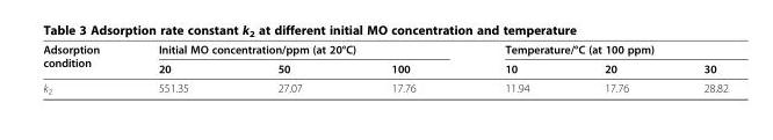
<table><thead><tr><td rowspan="2">Adsorption condition</td><td colspan="3">Initial MO concentration/ppm (at 20°C)</td><td colspan="3">Temperature/°C (at 100 ppm)</td></tr><tr><td>20</td><td>50</td><td>100</td><td>10</td><td>20</td><td>30</td></tr></thead><tbody><tr><td>k<sub>2</sub></td><td>551.35</td><td>27.07</td><td>17.76</td><td>11.94</td><td>17.76</td><td>28.82</td></tr></tbody></table>